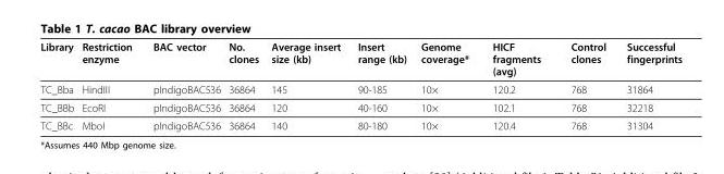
<table><thead><tr><td>Library</td><td>Restriction enzyme</td><td>BAC vector</td><td>No. clones</td><td>Average insert size (kb)</td><td>Insert range (kb)</td><td>Genome coverage*</td><td>HICF fragments (avg)</td><td>Control clones</td><td>Successful fingerprints</td></tr></thead><tbody><tr><td>TC_Bba</td><td>HindIII</td><td>pIndigoBAC536</td><td>36864</td><td>145</td><td>90-185</td><td>10×</td><td>120.2</td><td>768</td><td>31864</td></tr><tr><td>TC_BBb</td><td>EcoRI</td><td>pIndigoBAC536</td><td>36864</td><td>120</td><td>40-160</td><td>10×</td><td>102.1</td><td>768</td><td>32218</td></tr><tr><td>TC_BBc</td><td>MboI</td><td>pIndigoBAC536</td><td>36864</td><td>140</td><td>80-180</td><td>10×</td><td>120.4</td><td>768</td><td>31304</td></tr></tbody></table>